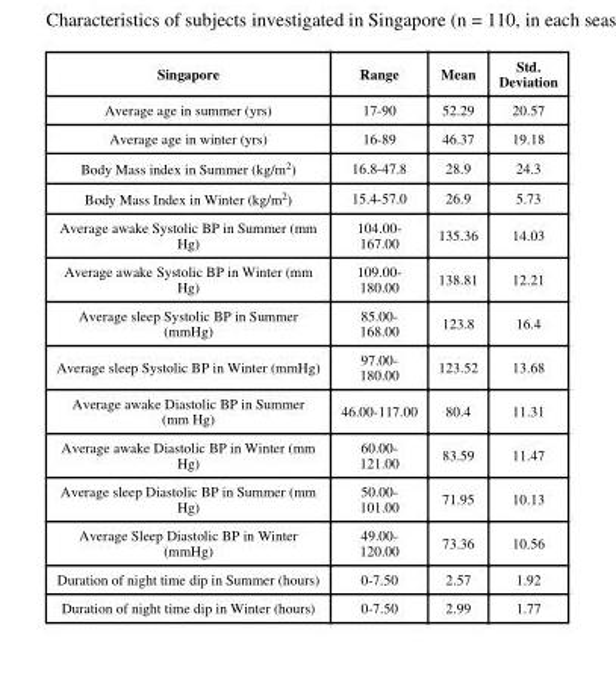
<table><thead><tr><td>Singapore</td><td>Range</td><td>Mean</td><td>Std. Deviation</td></tr></thead><tbody><tr><td>Average age in summer (yrs)</td><td>17-90</td><td>52.29</td><td>20.57</td></tr><tr><td>Average age in winter (yrs)</td><td>16-89</td><td>46.37</td><td>19.18</td></tr><tr><td>Body Mass index in Summer (kg/m<sup>2</sup>)</td><td>16.8-47.8</td><td>28.9</td><td>24.3</td></tr><tr><td>Body Mass Index in Winter (kg/m<sup>2</sup>)</td><td>15.4-57.0</td><td>26.9</td><td>5.73</td></tr><tr><td>Average awake Systolic BP in Summer (mm Hg)</td><td>104.00- 167.00</td><td>135.36</td><td>14.03</td></tr><tr><td>Average awake Systolic BP in Winter (mm Hg)</td><td>109.00- 180.00</td><td>138.81</td><td>12.21</td></tr><tr><td>Average sleep Systolic BP in Summer (mmHg)</td><td>85.00- 168.00</td><td>123.8</td><td>16.4</td></tr><tr><td>Average sleep Systolic BP in Winter (mmHg)</td><td>97.00- 180.00</td><td>123.52</td><td>13.68</td></tr><tr><td>Average awake Diastolic BP in Summer (mm Hg)</td><td>46.00-117.00</td><td>80.4</td><td>11.31</td></tr><tr><td>Average awake Diastolic BP in Winter (mm Hg)</td><td>60.00- 121.00</td><td>83.59</td><td>11.47</td></tr><tr><td>Average sleep Diastolic BP in Summer (mm Hg)</td><td>50.00- 101.00</td><td>71.95</td><td>10.13</td></tr><tr><td>Average Sleep Diastolic BP in Winter (mmHg)</td><td>49.00- 120.00</td><td>73.36</td><td>10.56</td></tr><tr><td>Duration of night time dip in Summer (hours)</td><td>0-7.50</td><td>2.57</td><td>1.92</td></tr><tr><td>Duration of night time dip in Winter (hours)</td><td>0-7.50</td><td>2.99</td><td>1.77</td></tr></tbody></table>